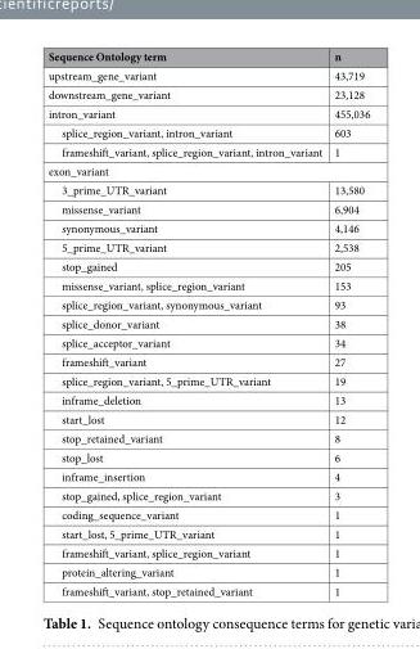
<table><thead><tr><td>Sequence Ontology term</td><td>n</td></tr></thead><tbody><tr><td>upstream_gene_variant</td><td>43,719</td></tr><tr><td>downstream_gene_variant</td><td>23,128</td></tr><tr><td>intron_variant</td><td>455,036</td></tr><tr><td>splice_region_variant, intron_variant</td><td>603</td></tr><tr><td>frameshift_variant, splice_region_variant, intron_variant</td><td>1</td></tr><tr><td colspan="2">exon_variant</td></tr><tr><td>3_prime_UTR_variant</td><td>13,580</td></tr><tr><td>missense_variant</td><td>6,904</td></tr><tr><td>synonymous_variant</td><td>4,146</td></tr><tr><td>5_prime_UTR_variant</td><td>2,538</td></tr><tr><td>stop_gained</td><td>205</td></tr><tr><td>missense_variant, splice_region_variant</td><td>153</td></tr><tr><td>splice_region_variant, synonymous_variant</td><td>93</td></tr><tr><td>splice_donor_variant</td><td>38</td></tr><tr><td>splice_acceptor_variant</td><td>34</td></tr><tr><td>frameshift_variant</td><td>27</td></tr><tr><td>splice_region_variant, 5_prime_UTR_variant</td><td>19</td></tr><tr><td>inframe_deletion</td><td>13</td></tr><tr><td>start_lost</td><td>12</td></tr><tr><td>stop_retained_variant</td><td>8</td></tr><tr><td>stop_lost</td><td>6</td></tr><tr><td>inframe_insertion</td><td>4</td></tr><tr><td>stop_gained, splice_region_variant</td><td>3</td></tr><tr><td>coding_sequence_variant</td><td>1</td></tr><tr><td>start_lost, 5_prime_UTR_variant</td><td>1</td></tr><tr><td>frameshift_variant, splice_region_variant</td><td>1</td></tr><tr><td>protein_altering_variant</td><td>1</td></tr><tr><td>frameshift_variant, stop_retained_variant</td><td>1</td></tr></tbody></table>